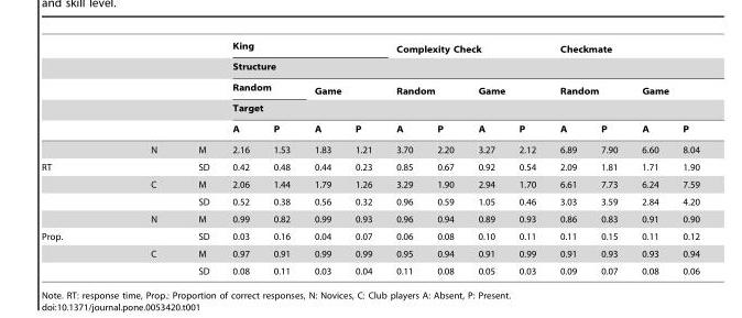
<table><thead><tr><td rowspan="5"></td><td rowspan="5"></td><td rowspan="5"></td><td colspan="4">King</td><td colspan="4">Complexity Check</td><td colspan="4">Checkmate</td></tr><tr><td colspan="12">Structure</td></tr><tr><td colspan="2">Random</td><td colspan="2">Game</td><td colspan="2">Random</td><td colspan="2">Game</td><td colspan="2">Random</td><td colspan="2">Game</td></tr><tr><td colspan="12">Target</td></tr><tr><td>A</td><td>P</td><td>A</td><td>P</td><td>A</td><td>P</td><td>A</td><td>P</td><td>A</td><td>P</td><td>A</td><td>P</td></tr></thead><tbody><tr><td></td><td>N</td><td>M</td><td>2.16</td><td>1.53</td><td>1.83</td><td>1.21</td><td>3.70</td><td>2.20</td><td>3.27</td><td>2.12</td><td>6.89</td><td>7.90</td><td>6.60</td><td>8.04</td></tr><tr><td rowspan="4">RT</td><td></td><td>SD</td><td>0.42</td><td>0.48</td><td>0.44</td><td>0.23</td><td>0.85</td><td>0.67</td><td>0.92</td><td>0.54</td><td>2.09</td><td>1.81</td><td>1.71</td><td>1.90</td></tr><tr><td>C</td><td>M</td><td>2.06</td><td>1.44</td><td>1.79</td><td>1.26</td><td>3.29</td><td>1.90</td><td>2.94</td><td>1.70</td><td>6.61</td><td>7.73</td><td>6.24</td><td>7.59</td></tr><tr><td></td><td>SD</td><td>0.52</td><td>0.38</td><td>0.56</td><td>0.32</td><td>0.96</td><td>0.59</td><td>1.05</td><td>0.46</td><td>3.03</td><td>3.59</td><td>2.84</td><td>4.20</td></tr><tr><td>N</td><td>M</td><td>0.99</td><td>0.82</td><td>0.99</td><td>0.93</td><td>0.96</td><td>0.94</td><td>0.89</td><td>0.93</td><td>0.86</td><td>0.83</td><td>0.91</td><td>0.90</td></tr><tr><td rowspan="3">Prop.</td><td></td><td>SD</td><td>0.03</td><td>0.16</td><td>0.04</td><td>0.07</td><td>0.06</td><td>0.08</td><td>0.10</td><td>0.11</td><td>0.11</td><td>0.15</td><td>0.11</td><td>0.12</td></tr><tr><td>C</td><td>M</td><td>0.97</td><td>0.91</td><td>0.99</td><td>0.99</td><td>0.95</td><td>0.94</td><td>0.91</td><td>0.99</td><td>0.91</td><td>0.93</td><td>0.93</td><td>0.94</td></tr><tr><td></td><td>SD</td><td>0.08</td><td>0.11</td><td>0.03</td><td>0.04</td><td>0.11</td><td>0.08</td><td>0.05</td><td>0.03</td><td>0.09</td><td>0.07</td><td>0.08</td><td>0.06</td></tr></tbody></table>